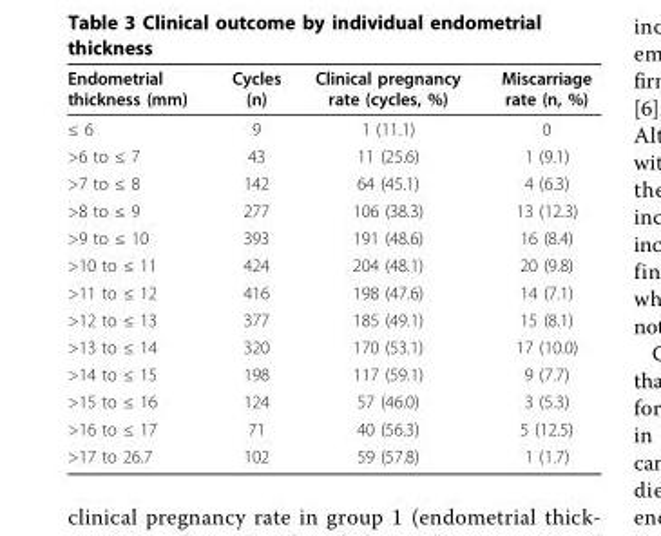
<table><thead><tr><td>Endometrial thickness (mm)</td><td>Cycles (n)</td><td>Clinical pregnancy rate (cycles, %)</td><td>Miscarriage rate (n, %)</td></tr></thead><tbody><tr><td>≤ 6</td><td>9</td><td>1 (11.1)</td><td>0</td></tr><tr><td>&gt;6 to ≤ 7</td><td>43</td><td>11 (25.6)</td><td>1 (9.1)</td></tr><tr><td>&gt;7 to ≤ 8</td><td>142</td><td>64 (45.1)</td><td>4 (6.3)</td></tr><tr><td>&gt;8 to ≤ 9</td><td>277</td><td>106 (38.3)</td><td>13 (12.3)</td></tr><tr><td>&gt;9 to ≤ 10</td><td>393</td><td>191 (48.6)</td><td>16 (8.4)</td></tr><tr><td>&gt;10 to ≤ 11</td><td>424</td><td>204 (48.1)</td><td>20 (9.8)</td></tr><tr><td>&gt;11 to ≤ 12</td><td>416</td><td>198 (47.6)</td><td>14 (7.1)</td></tr><tr><td>&gt;12 to ≤ 13</td><td>377</td><td>185 (49.1)</td><td>15 (8.1)</td></tr><tr><td>&gt;13 to ≤ 14</td><td>320</td><td>170 (53.1)</td><td>17 (10.0)</td></tr><tr><td>&gt;14 to ≤ 15</td><td>198</td><td>117 (59.1)</td><td>9 (7.7)</td></tr><tr><td>&gt;15 to ≤ 16</td><td>124</td><td>57 (46.0)</td><td>3 (5.3)</td></tr><tr><td>&gt;16 to ≤ 17</td><td>71</td><td>40 (56.3)</td><td>5 (12.5)</td></tr><tr><td>&gt;17 to 26.7</td><td>102</td><td>59 (57.8)</td><td>1 (1.7)</td></tr></tbody></table>